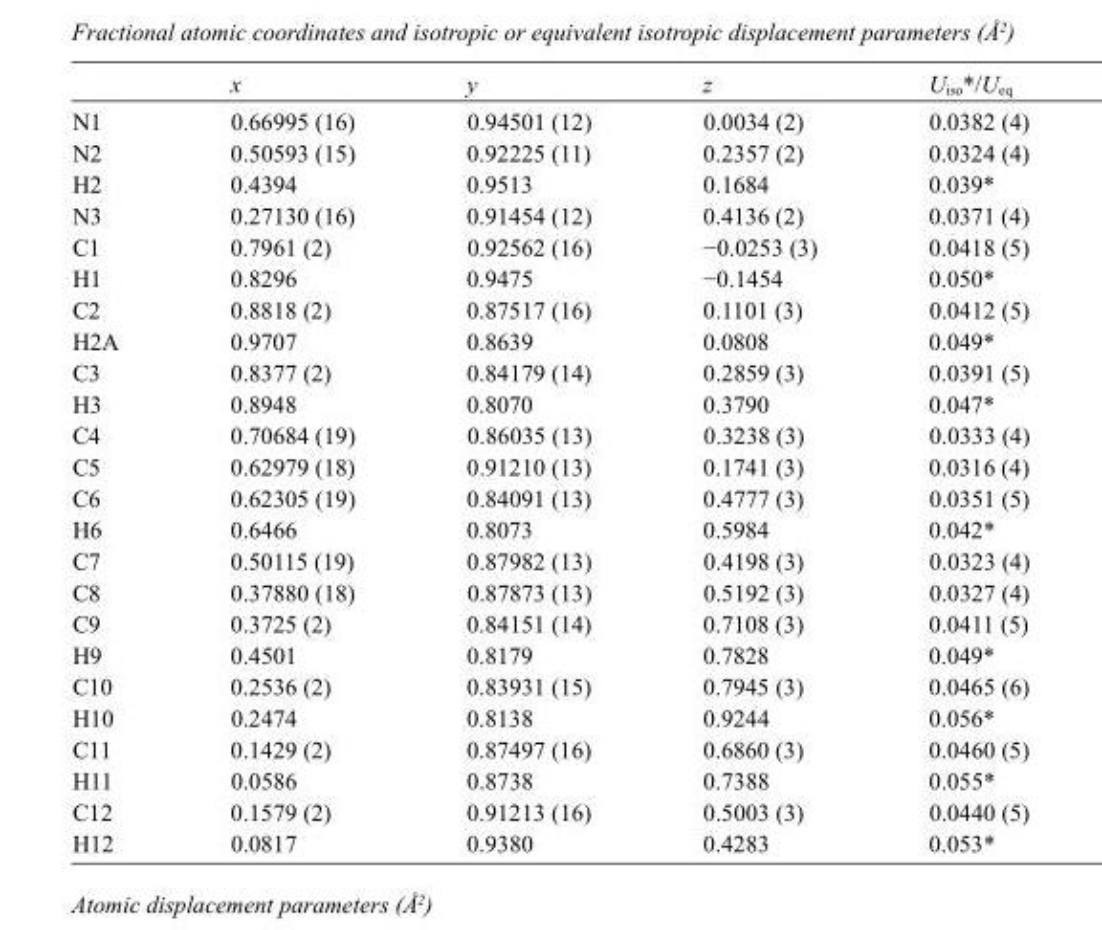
<table><thead><tr><td></td><td>x</td><td>y</td><td>z</td><td>U<sub>iso</sub>*/U<sub>eq</sub></td></tr></thead><tbody><tr><td>N1</td><td>0.66995 (16)</td><td>0.94501 (12)</td><td>0.0034 (2)</td><td>0.0382 (4)</td></tr><tr><td>N2</td><td>0.50593 (15)</td><td>0.92225 (11)</td><td>0.2357 (2)</td><td>0.0324 (4)</td></tr><tr><td>H2</td><td>0.4394</td><td>0.9513</td><td>0.1684</td><td>0.039*</td></tr><tr><td>N3</td><td>0.27130 (16)</td><td>0.91454 (12)</td><td>0.4136 (2)</td><td>0.0371 (4)</td></tr><tr><td>C1</td><td>0.7961 (2)</td><td>0.92562 (16)</td><td>−0.0253 (3)</td><td>0.0418 (5)</td></tr><tr><td>H1</td><td>0.8296</td><td>0.9475</td><td>−0.1454</td><td>0.050*</td></tr><tr><td>C2</td><td>0.8818 (2)</td><td>0.87517 (16)</td><td>0.1101 (3)</td><td>0.0412 (5)</td></tr><tr><td>H2A</td><td>0.9707</td><td>0.8639</td><td>0.0808</td><td>0.049*</td></tr><tr><td>C3</td><td>0.8377 (2)</td><td>0.84179 (14)</td><td>0.2859 (3)</td><td>0.0391 (5)</td></tr><tr><td>H3</td><td>0.8948</td><td>0.8070</td><td>0.3790</td><td>0.047*</td></tr><tr><td>C4</td><td>0.70684 (19)</td><td>0.86035 (13)</td><td>0.3238 (3)</td><td>0.0333 (4)</td></tr><tr><td>C5</td><td>0.62979 (18)</td><td>0.91210 (13)</td><td>0.1741 (3)</td><td>0.0316 (4)</td></tr><tr><td>C6</td><td>0.62305 (19)</td><td>0.84091 (13)</td><td>0.4777 (3)</td><td>0.0351 (5)</td></tr><tr><td>H6</td><td>0.6466</td><td>0.8073</td><td>0.5984</td><td>0.042*</td></tr><tr><td>C7</td><td>0.50115 (19)</td><td>0.87982 (13)</td><td>0.4198 (3)</td><td>0.0323 (4)</td></tr><tr><td>C8</td><td>0.37880 (18)</td><td>0.87873 (13)</td><td>0.5192 (3)</td><td>0.0327 (4)</td></tr><tr><td>C9</td><td>0.3725 (2)</td><td>0.84151 (14)</td><td>0.7108 (3)</td><td>0.0411 (5)</td></tr><tr><td>H9</td><td>0.4501</td><td>0.8179</td><td>0.7828</td><td>0.049*</td></tr><tr><td>C10</td><td>0.2536 (2)</td><td>0.83931 (15)</td><td>0.7945 (3)</td><td>0.0465 (6)</td></tr><tr><td>H10</td><td>0.2474</td><td>0.8138</td><td>0.9244</td><td>0.056*</td></tr><tr><td>C11</td><td>0.1429 (2)</td><td>0.87497 (16)</td><td>0.6860 (3)</td><td>0.0460 (5)</td></tr><tr><td>H11</td><td>0.0586</td><td>0.8738</td><td>0.7388</td><td>0.055*</td></tr><tr><td>C12</td><td>0.1579 (2)</td><td>0.91213 (16)</td><td>0.5003 (3)</td><td>0.0440 (5)</td></tr><tr><td>H12</td><td>0.0817</td><td>0.9380</td><td>0.4283</td><td>0.053*</td></tr></tbody></table>